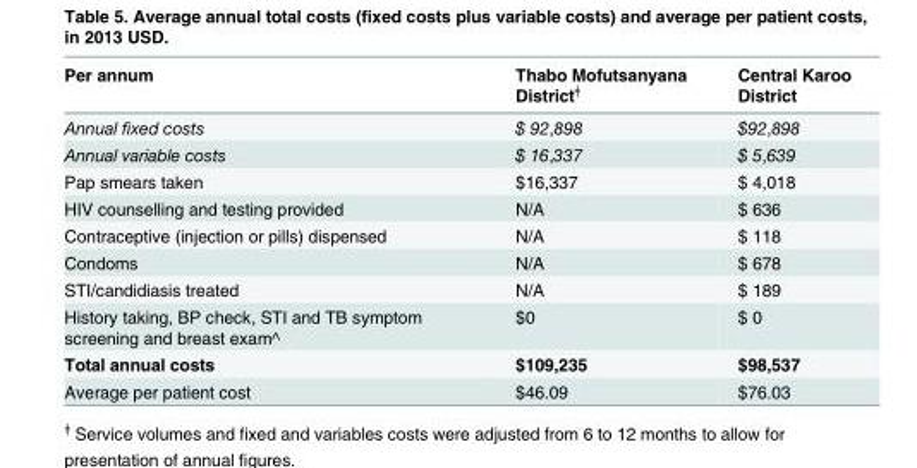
<table><thead><tr><td>Per annum</td><td>Thabo Mofutsanyana District<sup>ǂ</sup></td><td>Central Karoo District</td></tr></thead><tbody><tr><td>Annual fixed costs</td><td>$ 92,898</td><td>$92,898</td></tr><tr><td>Annual variable costs</td><td>$ 16,337</td><td>$ 5,639</td></tr><tr><td>Pap smears taken</td><td>$16,337</td><td>$ 4,018</td></tr><tr><td>HIV counselling and testing provided</td><td>N/A</td><td>$ 636</td></tr><tr><td>Contraceptive (injection or pills) dispensed</td><td>N/A</td><td>$ 118</td></tr><tr><td>Condoms</td><td>N/A</td><td>$ 678</td></tr><tr><td>STI/candidiasis treated</td><td>N/A</td><td>$ 189</td></tr><tr><td>History taking, BP check, STI and TB symptom screening and breast exam^</td><td>$0</td><td>$ 0</td></tr><tr><td>Total annual costs</td><td>$109,235</td><td>$98,537</td></tr><tr><td>Average per patient cost</td><td>$46.09</td><td>$76.03</td></tr></tbody></table>